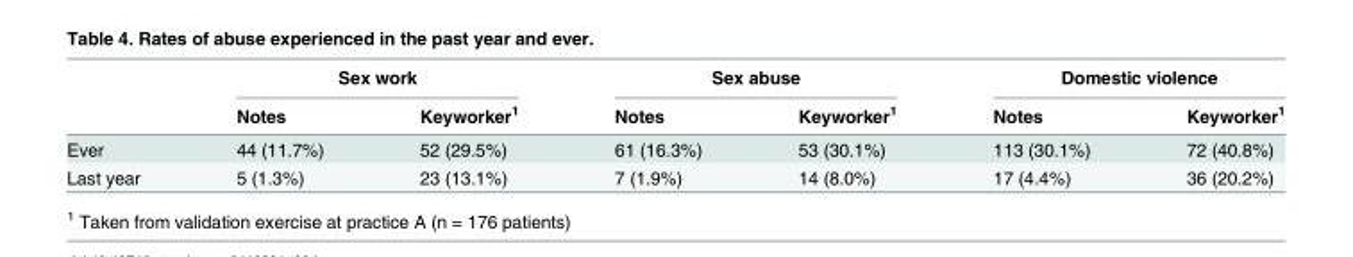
<table><thead><tr><td rowspan="2"></td><td colspan="2">Sex work</td><td colspan="2">Sex abuse</td><td colspan="2">Domestic violence</td></tr><tr><td>Notes</td><td>Keyworker<sup>1</sup></td><td>Notes</td><td>Keyworker<sup>1</sup></td><td>Notes</td><td>Keyworker<sup>1</sup></td></tr></thead><tbody><tr><td>Ever</td><td>44 (11.7%)</td><td>52 (29.5%)</td><td>61 (16.3%)</td><td>53 (30.1%)</td><td>113 (30.1%)</td><td>72 (40.8%)</td></tr><tr><td>Last year</td><td>5 (1.3%)</td><td>23 (13.1%)</td><td>7 (1.9%)</td><td>14 (8.0%)</td><td>17 (4.4%)</td><td>36 (20.2%)</td></tr></tbody></table>